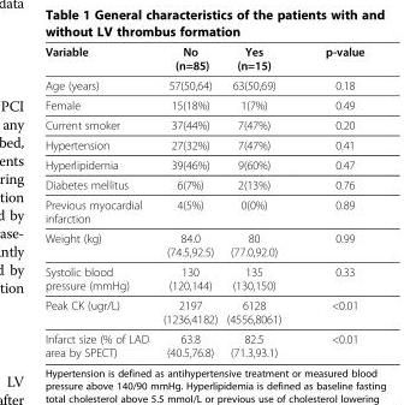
<table><thead><tr><td>Variable</td><td>No (n=85)</td><td>Yes (n=15)</td><td>p-value</td></tr></thead><tbody><tr><td>Age (years)</td><td>57(50,64)</td><td>63(50,69)</td><td>0.18</td></tr><tr><td>Female</td><td>15(18%)</td><td>1(7%)</td><td>0.49</td></tr><tr><td>Current smoker</td><td>37(44%)</td><td>7(47%)</td><td>0.20</td></tr><tr><td>Hypertension</td><td>27(32%)</td><td>7(47%)</td><td>0.41</td></tr><tr><td>Hyperlipidemia</td><td>39(46%)</td><td>9(60%)</td><td>0.47</td></tr><tr><td>Diabetes mellitus</td><td>6(7%)</td><td>2(13%)</td><td>0.76</td></tr><tr><td>Previous myocardial infarction</td><td>4(5%)</td><td>0(0%)</td><td>0.89</td></tr><tr><td>Weight (kg)</td><td>84.0 (74.5,92.5)</td><td>80 (77.0,92.0)</td><td>0.99</td></tr><tr><td>Systolic blood pressure (mmHg)</td><td>130 (120,144)</td><td>135 (130,150)</td><td>0.33</td></tr><tr><td>Peak CK (ugr/L)</td><td>2197 (1236,4182)</td><td>6128 (4556,8061)</td><td>&lt;0.01</td></tr><tr><td>Infarct size (% of LAD area by SPECT)</td><td>63.8 (40.5,76.8)</td><td>82.5 (71.3,93.1)</td><td>&lt;0.01</td></tr></tbody></table>